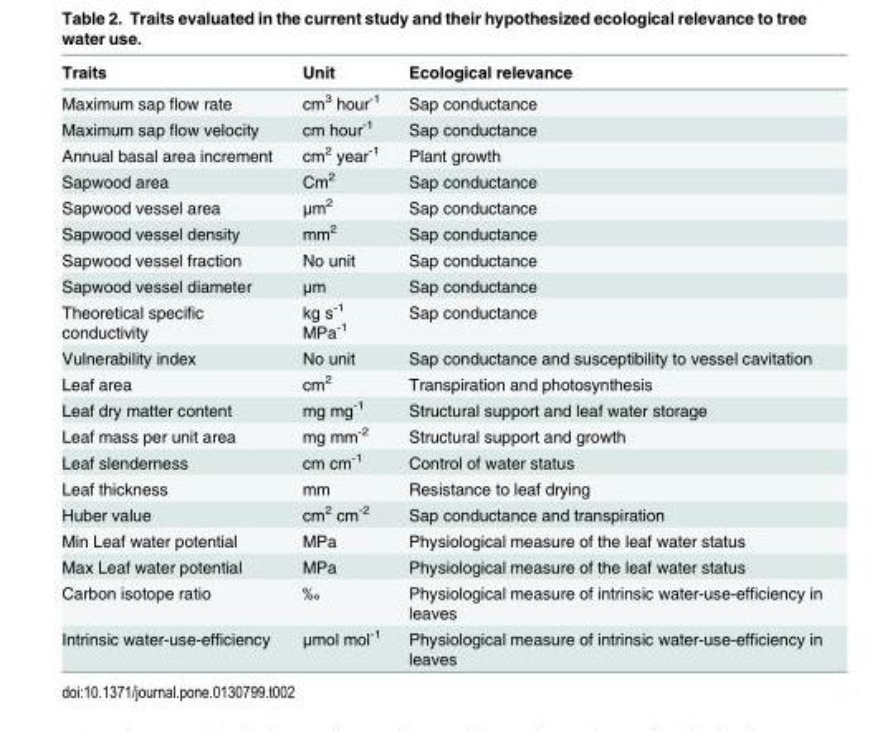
<table><thead><tr><td>Traits</td><td>Unit</td><td>Ecological relevance</td></tr></thead><tbody><tr><td>Maximum sap flow rate</td><td>cm<sup>3</sup> hour<sup>-1</sup></td><td>Sap conductance</td></tr><tr><td>Maximum sap flow velocity</td><td>cm hour<sup>-1</sup></td><td>Sap conductance</td></tr><tr><td>Annual basal area increment</td><td>cm<sup>2</sup> year<sup>-1</sup></td><td>Plant growth</td></tr><tr><td>Sapwood area</td><td>Cm<sup>2</sup></td><td>Sap conductance</td></tr><tr><td>Sapwood vessel area</td><td>μm<sup>2</sup></td><td>Sap conductance</td></tr><tr><td>Sapwood vessel density</td><td>mm<sup>2</sup></td><td>Sap conductance</td></tr><tr><td>Sapwood vessel fraction</td><td>No unit</td><td>Sap conductance</td></tr><tr><td>Sapwood vessel diameter</td><td>μm</td><td>Sap conductance</td></tr><tr><td>Theoretical specific conductivity</td><td>kg s<sup>-1</sup> MPa<sup>-1</sup></td><td>Sap conductance</td></tr><tr><td>Vulnerability index</td><td>No unit</td><td>Sap conductance and susceptibility to vessel cavitation</td></tr><tr><td>Leaf area</td><td>cm<sup>2</sup></td><td>Transpiration and photosynthesis</td></tr><tr><td>Leaf dry matter content</td><td>mg mg<sup>-1</sup></td><td>Structural support and leaf water storage</td></tr><tr><td>Leaf mass per unit area</td><td>mg mm<sup>-2</sup></td><td>Structural support and growth</td></tr><tr><td>Leaf slenderness</td><td>cm cm<sup>-1</sup></td><td>Control of water status</td></tr><tr><td>Leaf thickness</td><td>mm</td><td>Resistance to leaf drying</td></tr><tr><td>Huber value</td><td>cm<sup>2</sup> cm<sup>-2</sup></td><td>Sap conductance and transpiration</td></tr><tr><td>Min Leaf water potential</td><td>MPa</td><td>Physiological measure of the leaf water status</td></tr><tr><td>Max Leaf water potential</td><td>MPa</td><td>Physiological measure of the leaf water status</td></tr><tr><td>Carbon isotope ratio</td><td>‰</td><td>Physiological measure of intrinsic water-use-efficiency in leaves</td></tr><tr><td>Intrinsic water-use-efficiency</td><td>μmol mol<sup>-1</sup></td><td>Physiological measure of intrinsic water-use-efficiency in leaves</td></tr></tbody></table>